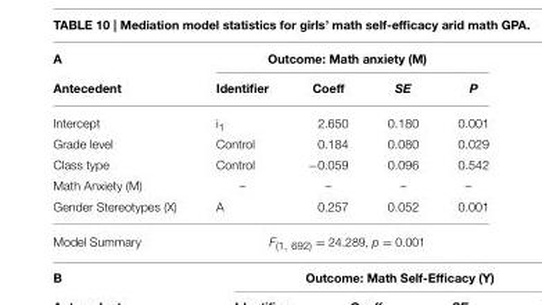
<table><thead><tr><td rowspan="2">A Antecedent</td><td colspan="4">Outcome: Math anxiety (M)</td></tr><tr><td>Identifier</td><td>Coeff</td><td>SE</td><td>P</td></tr></thead><tbody><tr><td>Intercept</td><td>i<sub>1</sub></td><td>2.650</td><td>0.180</td><td>0.001</td></tr><tr><td>Grade level</td><td>Control</td><td>0.184</td><td>0.080</td><td>0.029</td></tr><tr><td>Class type</td><td>Control</td><td>−0.059</td><td>0.096</td><td>0.542</td></tr><tr><td>Math Anxiety (M)</td><td>–</td><td>–</td><td>–</td><td>–</td></tr><tr><td>Gender Stereotypes (X)</td><td>A</td><td>0.257</td><td>0.052</td><td>0.001</td></tr><tr><td>Model Summary</td><td colspan="4">F<sub>(1, 692)</sub> = 24.289, p = 0.001</td></tr></tbody></table>